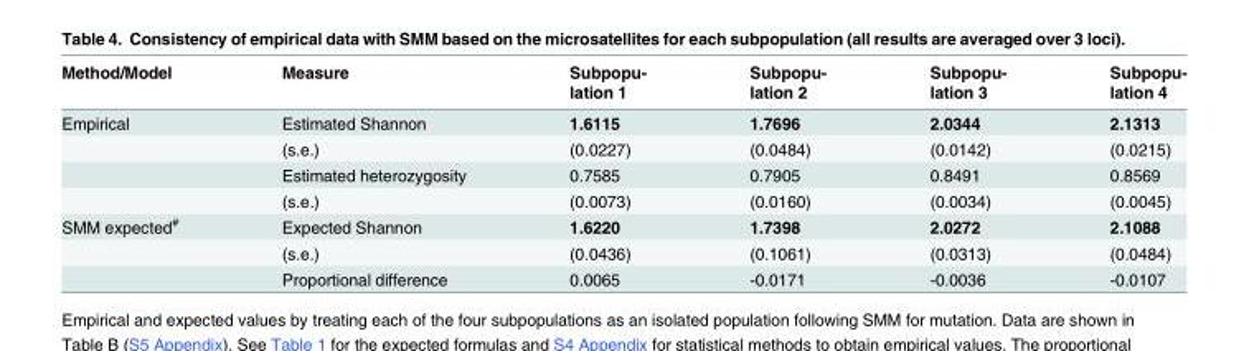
<table><thead><tr><td rowspan="2">Method/Model</td><td rowspan="2">Measure</td><td rowspan="2">Subpopu- lation 1</td><td rowspan="2">Subpopu- lation 2</td><td rowspan="2">Subpopu- lation 3</td><td rowspan="2">Subpopu- lation 4</td></tr><tr></tr></thead><tbody><tr><td rowspan="4">Empirical</td><td>Estimated Shannon</td><td>1.6115</td><td>1.7696</td><td>2.0344</td><td>2.1313</td></tr><tr><td>(s.e.)</td><td>(0.0227)</td><td>(0.0484)</td><td>(0.0142)</td><td>(0.0215)</td></tr><tr><td>Estimated heterozygosity</td><td>0.7585</td><td>0.7905</td><td>0.8491</td><td>0.8569</td></tr><tr><td>(s.e.)</td><td>(0.0073)</td><td>(0.0160)</td><td>(0.0034)</td><td>(0.0045)</td></tr><tr><td rowspan="3">SMM expected<sup>#</sup></td><td>Expected Shannon</td><td>1.6220</td><td>1.7398</td><td>2.0272</td><td>2.1088</td></tr><tr><td>(s.e.)</td><td>(0.0436)</td><td>(0.1061)</td><td>(0.0313)</td><td>(0.0484)</td></tr><tr><td>Proportional difference</td><td>0.0065</td><td>-0.0171</td><td>-0.0036</td><td>-0.0107</td></tr></tbody></table>